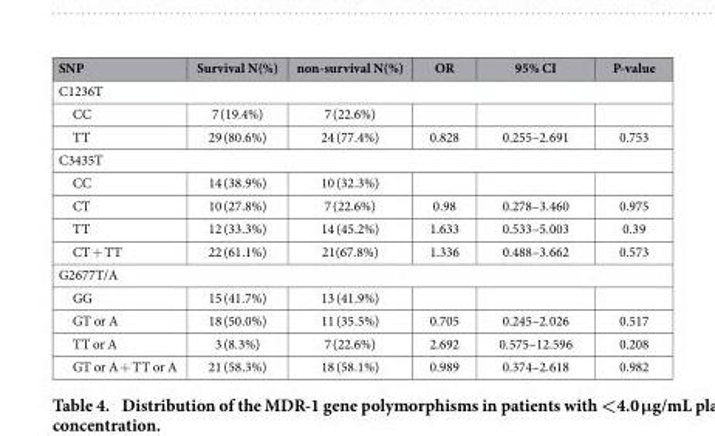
<table><thead><tr><td>SNP</td><td>Survival N(%)</td><td>non-survival N(%)</td><td>OR</td><td>95% CI</td><td>P-value</td></tr></thead><tbody><tr><td colspan="6">C1236T</td></tr><tr><td>CC</td><td>7 (19.4%)</td><td>7 (22.6%)</td><td></td><td></td><td></td></tr><tr><td>TT</td><td>29 (80.6%)</td><td>24 (77.4%)</td><td>0.828</td><td>0.255–2.691</td><td>0.753</td></tr><tr><td colspan="6">C3435T</td></tr><tr><td>CC</td><td>14 (38.9%)</td><td>10 (32.3%)</td><td></td><td></td><td></td></tr><tr><td>CT</td><td>10 (27.8%)</td><td>7 (22.6%)</td><td>0.98</td><td>0.278–3.460</td><td>0.975</td></tr><tr><td>TT</td><td>12 (33.3%)</td><td>14 (45.2%)</td><td>1.633</td><td>0.533–5.003</td><td>0.39</td></tr><tr><td>CT + TT</td><td>22 (61.1%)</td><td>21(67.8%)</td><td>1.336</td><td>0.488–3.662</td><td>0.573</td></tr><tr><td colspan="6">G2677T/A</td></tr><tr><td>GG</td><td>15 (41.7%)</td><td>13 (41.9%)</td><td></td><td></td><td></td></tr><tr><td>GT or A</td><td>18 (50.0%)</td><td>11 (35.5%)</td><td>0.705</td><td>0.245–2.026</td><td>0.517</td></tr><tr><td>TT or A</td><td>3 (8.3%)</td><td>7 (22.6%)</td><td>2.692</td><td>0.575–12.596</td><td>0.208</td></tr><tr><td>GT or A + TT or A</td><td>21 (58.3%)</td><td>18 (58.1%)</td><td>0.989</td><td>0.374–2.618</td><td>0.982</td></tr></tbody></table>